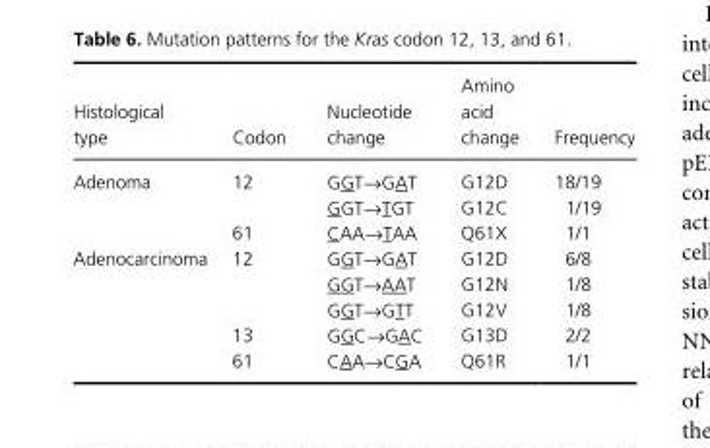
<table><thead><tr><td>Histological type</td><td>Codon</td><td>Nucleotide change</td><td>Amino acid change</td><td>Frequency</td></tr></thead><tbody><tr><td rowspan="3">Adenoma</td><td>12</td><td>GGT→GAT</td><td>G12D</td><td>18/19</td></tr><tr><td></td><td>GGT→TGT</td><td>G12C</td><td>1/19</td></tr><tr><td>61</td><td>CAA→TAA</td><td>Q61X</td><td>1/1</td></tr><tr><td rowspan="5">Adenocarcinoma</td><td>12</td><td>GGT→GAT</td><td>G12D</td><td>6/8</td></tr><tr><td></td><td>GGT→AAT</td><td>G12N</td><td>1/8</td></tr><tr><td></td><td>GGT→GTT</td><td>G12V</td><td>1/8</td></tr><tr><td>13</td><td>GGC→GAC</td><td>G13D</td><td>2/2</td></tr><tr><td>61</td><td>CAA→CGA</td><td>Q61R</td><td>1/1</td></tr></tbody></table>